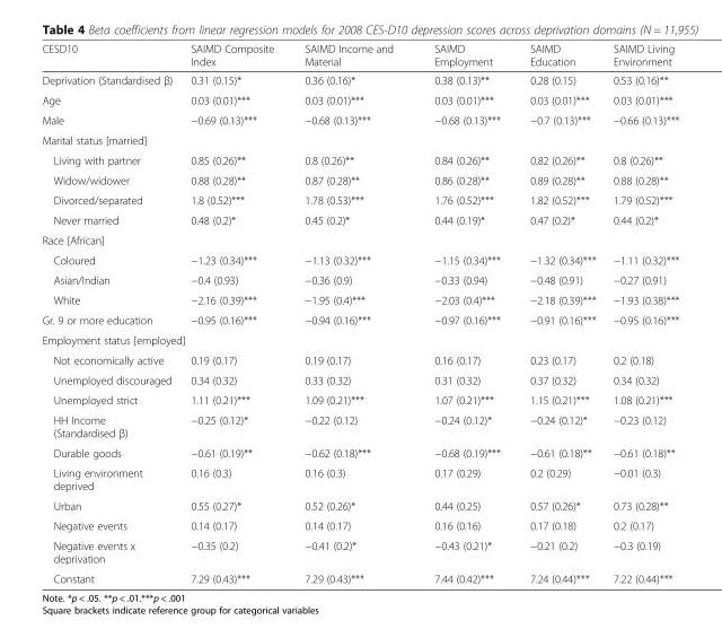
<table><thead><tr><td>CESD10</td><td>SAIMD Composite Index</td><td>SAIMD Income and Material</td><td>SAIMD Employment</td><td>SAIMD Education</td><td>SAIMD Living Environment</td></tr></thead><tbody><tr><td>Deprivation (Standardised β)</td><td>0.31 (0.15)*</td><td>0.36 (0.16)*</td><td>0.38 (0.13)**</td><td>0.28 (0.15)</td><td>0.53 (0.16)**</td></tr><tr><td>Age</td><td>0.03 (0.01)***</td><td>0.03 (0.01)***</td><td>0.03 (0.01)***</td><td>0.03 (0.01)***</td><td>0.03 (0.01)***</td></tr><tr><td>Male</td><td>−0.69 (0.13)***</td><td>−0.68 (0.13)***</td><td>−0.68 (0.13)***</td><td>−0.7 (0.13)***</td><td>−0.66 (0.13)***</td></tr><tr><td colspan="6">Marital status [married]</td></tr><tr><td>Living with partner</td><td>0.85 (0.26)**</td><td>0.8 (0.26)**</td><td>0.84 (0.26)**</td><td>0.82 (0.26)**</td><td>0.8 (0.26)**</td></tr><tr><td>Widow/widower</td><td>0.88 (0.28)**</td><td>0.87 (0.28)**</td><td>0.86 (0.28)**</td><td>0.89 (0.28)**</td><td>0.88 (0.28)**</td></tr><tr><td>Divorced/separated</td><td>1.8 (0.52)***</td><td>1.78 (0.53)***</td><td>1.76 (0.52)***</td><td>1.82 (0.52)***</td><td>1.79 (0.52)***</td></tr><tr><td>Never married</td><td>0.48 (0.2)*</td><td>0.45 (0.2)*</td><td>0.44 (0.19)*</td><td>0.47 (0.2)*</td><td>0.44 (0.2)*</td></tr><tr><td colspan="6">Race [African]</td></tr><tr><td>Coloured</td><td>−1.23 (0.34)***</td><td>−1.13 (0.32)***</td><td>−1.15 (0.34)***</td><td>−1.32 (0.34)***</td><td>−1.11 (0.32)***</td></tr><tr><td>Asian/Indian</td><td>−0.4 (0.93)</td><td>−0.36 (0.9)</td><td>−0.33 (0.94)</td><td>−0.48 (0.91)</td><td>−0.27 (0.91)</td></tr><tr><td>White</td><td>−2.16 (0.39)***</td><td>−1.95 (0.4)***</td><td>−2.03 (0.4)***</td><td>−2.18 (0.39)***</td><td>−1.93 (0.38)***</td></tr><tr><td>Gr. 9 or more education</td><td>−0.95 (0.16)***</td><td>−0.94 (0.16)***</td><td>−0.97 (0.16)***</td><td>−0.91 (0.16)***</td><td>−0.95 (0.16)***</td></tr><tr><td colspan="6">Employment status [employed]</td></tr><tr><td>Not economically active</td><td>0.19 (0.17)</td><td>0.19 (0.17)</td><td>0.16 (0.17)</td><td>0.23 (0.17)</td><td>0.2 (0.18)</td></tr><tr><td>Unemployed discouraged</td><td>0.34 (0.32)</td><td>0.33 (0.32)</td><td>0.31 (0.32)</td><td>0.37 (0.32)</td><td>0.34 (0.32)</td></tr><tr><td>Unemployed strict</td><td>1.11 (0.21)***</td><td>1.09 (0.21)***</td><td>1.07 (0.21)***</td><td>1.15 (0.21)***</td><td>1.08 (0.21)***</td></tr><tr><td>HH Income (Standardised β)</td><td>−0.25 (0.12)*</td><td>−0.22 (0.12)</td><td>−0.24 (0.12)*</td><td>−0.24 (0.12)*</td><td>−0.23 (0.12)</td></tr><tr><td>Durable goods</td><td>−0.61 (0.19)**</td><td>−0.62 (0.18)***</td><td>−0.68 (0.19)***</td><td>−0.61 (0.18)**</td><td>−0.61 (0.18)**</td></tr><tr><td>Living environment deprived</td><td>0.16 (0.3)</td><td>0.16 (0.3)</td><td>0.17 (0.29)</td><td>0.2 (0.29)</td><td>−0.01 (0.3)</td></tr><tr><td>Urban</td><td>0.55 (0.27)*</td><td>0.52 (0.26)*</td><td>0.44 (0.25)</td><td>0.57 (0.26)*</td><td>0.73 (0.28)**</td></tr><tr><td>Negative events</td><td>0.14 (0.17)</td><td>0.14 (0.17)</td><td>0.16 (0.16)</td><td>0.17 (0.18)</td><td>0.2 (0.17)</td></tr><tr><td>Negative events x deprivation</td><td>−0.35 (0.2)</td><td>−0.41 (0.2)*</td><td>−0.43 (0.21)*</td><td>−0.21 (0.2)</td><td>−0.3 (0.19)</td></tr><tr><td>Constant</td><td>7.29 (0.43)***</td><td>7.29 (0.43)***</td><td>7.44 (0.42)***</td><td>7.24 (0.44)***</td><td>7.22 (0.44)***</td></tr></tbody></table>